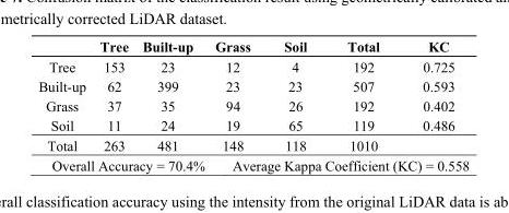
<table><thead><tr><td></td><td>Tree</td><td>Built-up</td><td>Grass</td><td>Soil</td><td>Total</td><td>KC</td></tr></thead><tbody><tr><td>Tree</td><td>153</td><td>23</td><td>12</td><td>4</td><td>192</td><td>0.725</td></tr><tr><td>Built-up</td><td>62</td><td>399</td><td>23</td><td>23</td><td>507</td><td>0.593</td></tr><tr><td>Grass</td><td>37</td><td>35</td><td>94</td><td>26</td><td>192</td><td>0.402</td></tr><tr><td>Soil</td><td>11</td><td>24</td><td>19</td><td>65</td><td>119</td><td>0.486</td></tr><tr><td>Total</td><td>263</td><td>481</td><td>148</td><td>118</td><td>1010</td><td></td></tr><tr><td colspan="3">Overall Accuracy = 70.4%</td><td colspan="4">Average Kappa Coefficient (KC) = 0.558</td></tr></tbody></table>